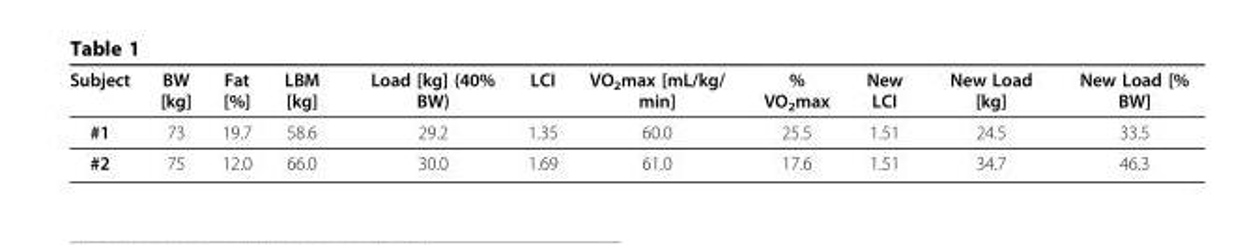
<table><thead><tr><td>Subject</td><td>BW [kg]</td><td>Fat [%]</td><td>LBM [kg]</td><td>Load [kg] (40% BW)</td><td>LCI</td><td>VO<sub>2</sub>max [mL/kg/ min]</td><td>% VO<sub>2</sub>max</td><td>New LCI</td><td>New Load [kg]</td><td>New Load [% BW]</td></tr></thead><tbody><tr><td>#1</td><td>73</td><td>19.7</td><td>58.6</td><td>29.2</td><td>1.35</td><td>60.0</td><td>25.5</td><td>1.51</td><td>24.5</td><td>33.5</td></tr><tr><td>#2</td><td>75</td><td>12.0</td><td>66.0</td><td>30.0</td><td>1.69</td><td>61.0</td><td>17.6</td><td>1.51</td><td>34.7</td><td>46.3</td></tr></tbody></table>